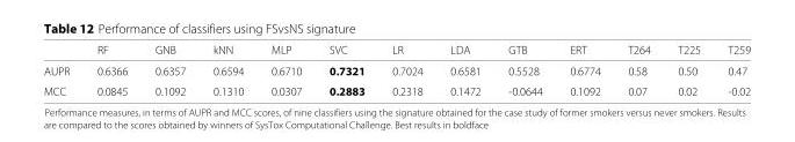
<table><thead><tr><td></td><td>RF</td><td>GNB</td><td>kNN</td><td>MLP</td><td>SVC</td><td>LR</td><td>LDA</td><td>GTB</td><td>ERT</td><td>T264</td><td>T225</td><td>T259</td></tr></thead><tbody><tr><td>AUPR</td><td>0.6366</td><td>0.6357</td><td>0.6594</td><td>0.6710</td><td>0.7321</td><td>0.7024</td><td>0.6581</td><td>0.5528</td><td>0.6774</td><td>0.58</td><td>0.50</td><td>0.47</td></tr><tr><td>MCC</td><td>0.0845</td><td>0.1092</td><td>0.1310</td><td>0.0307</td><td>0.2883</td><td>0.2318</td><td>0.1472</td><td>-0.0644</td><td>0.1092</td><td>0.07</td><td>0.02</td><td>-0.02</td></tr></tbody></table>